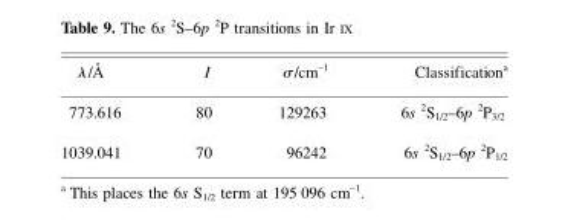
<table><thead><tr><td>λ/Å</td><td>I</td><td>σ/cm<sup>–1</sup></td><td>Classification<sup>a</sup></td></tr></thead><tbody><tr><td>773.616</td><td>80</td><td>129263</td><td>6s <sup>2</sup>S<sub>1/2</sub>–6p <sup>2</sup>P<sub>3/2</sub></td></tr><tr><td>1039.041</td><td>70</td><td>96242</td><td>6s <sup>2</sup>S<sub>1/2</sub>–6p <sup>2</sup>P<sub>1/2</sub></td></tr></tbody></table>